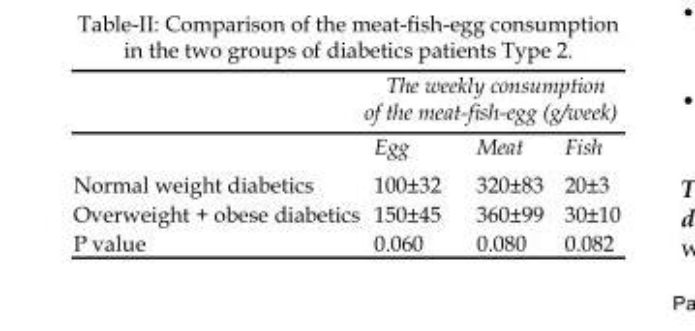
<table><thead><tr><td rowspan="2"></td><td colspan="3">The weekly consumption of the meat-fish-egg (g/week)</td></tr><tr><td>Egg</td><td>Meat</td><td>Fish</td></tr></thead><tbody><tr><td>Normal weight diabetics</td><td>100±32</td><td>320±83</td><td>20±3</td></tr><tr><td>Overweight + obese diabetics</td><td>150±45</td><td>360±99</td><td>30±10</td></tr><tr><td>P value</td><td>0.060</td><td>0.080</td><td>0.082</td></tr></tbody></table>